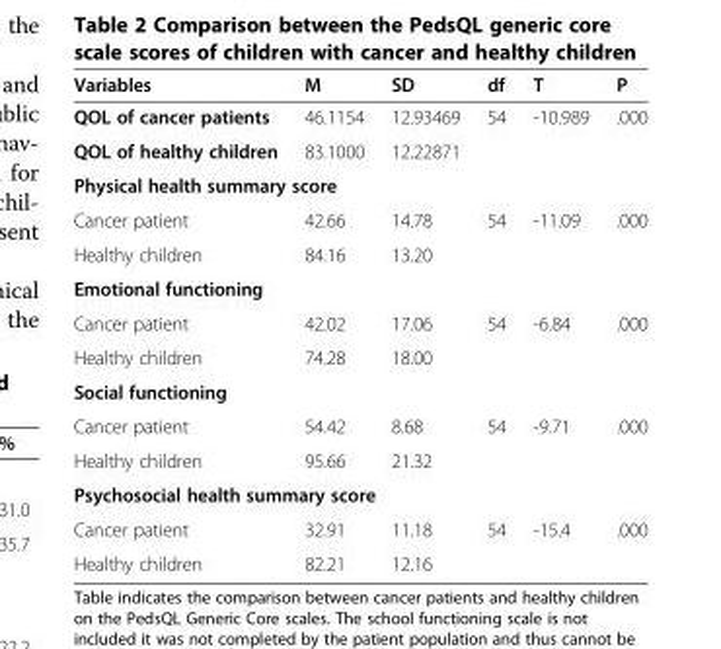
<table><thead><tr><td>Variables</td><td>M</td><td>SD</td><td>df</td><td>T</td><td>P</td></tr></thead><tbody><tr><td>QOL of cancer patients</td><td>46.1154</td><td>12.93469</td><td>54</td><td>-10.989</td><td>.000</td></tr><tr><td>QOL of healthy children</td><td>83.1000</td><td>12.22871</td><td></td><td></td><td></td></tr><tr><td colspan="6">Physical health summary score</td></tr><tr><td>Cancer patient</td><td>42.66</td><td>14.78</td><td>54</td><td>-11.09</td><td>.000</td></tr><tr><td>Healthy children</td><td>84.16</td><td>13.20</td><td></td><td></td><td></td></tr><tr><td colspan="6">Emotional functioning</td></tr><tr><td>Cancer patient</td><td>42.02</td><td>17.06</td><td>54</td><td>-6.84</td><td>.000</td></tr><tr><td>Healthy children</td><td>74.28</td><td>18.00</td><td></td><td></td><td></td></tr><tr><td colspan="6">Social functioning</td></tr><tr><td>Cancer patient</td><td>54.42</td><td>8.68</td><td>54</td><td>-9.71</td><td>.000</td></tr><tr><td>Healthy children</td><td>95.66</td><td>21.32</td><td></td><td></td><td></td></tr><tr><td colspan="6">Psychosocial health summary score</td></tr><tr><td>Cancer patient</td><td>32.91</td><td>11.18</td><td>54</td><td>-15.4</td><td>.000</td></tr><tr><td>Healthy children</td><td>82.21</td><td>12.16</td><td></td><td></td><td></td></tr></tbody></table>